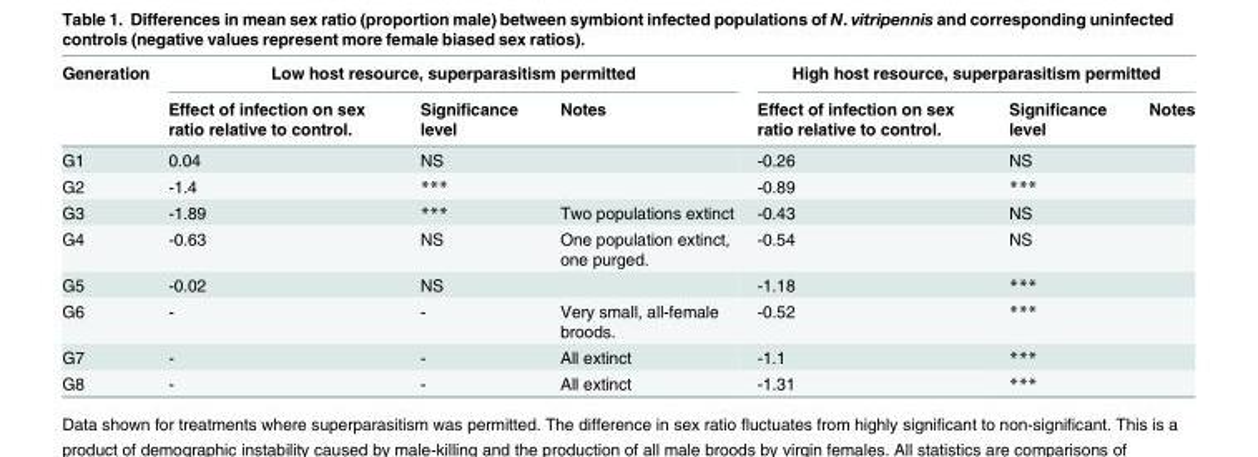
<table><thead><tr><td rowspan="2">Generation</td><td colspan="3">Low host resource, superparasitism permitted</td><td colspan="3">High host resource, superparasitism permitted</td></tr><tr><td>Effect of infection on sex ratio relative to control.</td><td>Significance level</td><td>Notes</td><td>Effect of infection on sex ratio relative to control.</td><td>Significance level</td><td>Notes</td></tr></thead><tbody><tr><td>G1</td><td>0.04</td><td>NS</td><td></td><td>-0.26</td><td>NS</td><td></td></tr><tr><td>G2</td><td>-1.4</td><td>***</td><td></td><td>-0.89</td><td>***</td><td></td></tr><tr><td>G3</td><td>-1.89</td><td>***</td><td>Two populations extinct</td><td>-0.43</td><td>NS</td><td></td></tr><tr><td>G4</td><td>-0.63</td><td>NS</td><td>One population extinct, one purged.</td><td>-0.54</td><td>NS</td><td></td></tr><tr><td>G5</td><td>-0.02</td><td>NS</td><td></td><td>-1.18</td><td>***</td><td></td></tr><tr><td>G6</td><td>-</td><td>-</td><td>Very small, all-female broods.</td><td>-0.52</td><td>***</td><td></td></tr><tr><td>G7</td><td>-</td><td>-</td><td>All extinct</td><td>-1.1</td><td>***</td><td></td></tr><tr><td>G8</td><td>-</td><td>-</td><td>All extinct</td><td>-1.31</td><td>***</td><td></td></tr></tbody></table>